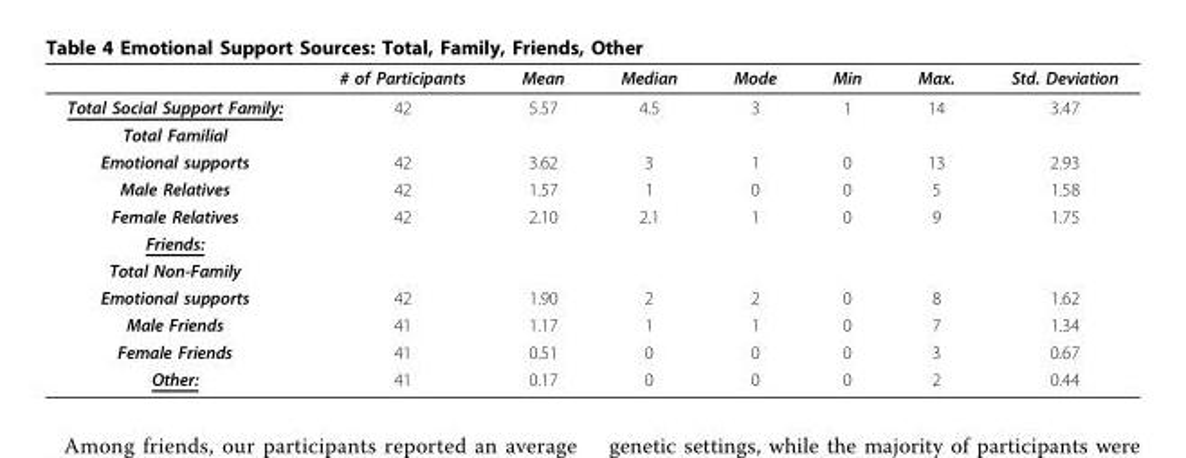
<table><thead><tr><td></td><td># of Participants</td><td>Mean</td><td>Median</td><td>Mode</td><td>Min</td><td>Max.</td><td>Std. Deviation</td></tr></thead><tbody><tr><td>Total Social Support Family:</td><td>42</td><td>5.57</td><td>4.5</td><td>3</td><td>1</td><td>14</td><td>3.47</td></tr><tr><td colspan="8">Total Familial</td></tr><tr><td>Emotional supports</td><td>42</td><td>3.62</td><td>3</td><td>1</td><td>0</td><td>13</td><td>2.93</td></tr><tr><td>Male Relatives</td><td>42</td><td>1.57</td><td>1</td><td>0</td><td>0</td><td>5</td><td>1.58</td></tr><tr><td>Female Relatives</td><td>42</td><td>2.10</td><td>2.1</td><td>1</td><td>0</td><td>9</td><td>1.75</td></tr><tr><td colspan="8">Friends:</td></tr><tr><td colspan="8">Total Non-Family</td></tr><tr><td>Emotional supports</td><td>42</td><td>1.90</td><td>2</td><td>2</td><td>0</td><td>8</td><td>1.62</td></tr><tr><td>Male Friends</td><td>41</td><td>1.17</td><td>1</td><td>1</td><td>0</td><td>7</td><td>1.34</td></tr><tr><td>Female Friends</td><td>41</td><td>0.51</td><td>0</td><td>0</td><td>0</td><td>3</td><td>0.67</td></tr><tr><td>Other:</td><td>41</td><td>0.17</td><td>0</td><td>0</td><td>0</td><td>2</td><td>0.44</td></tr></tbody></table>